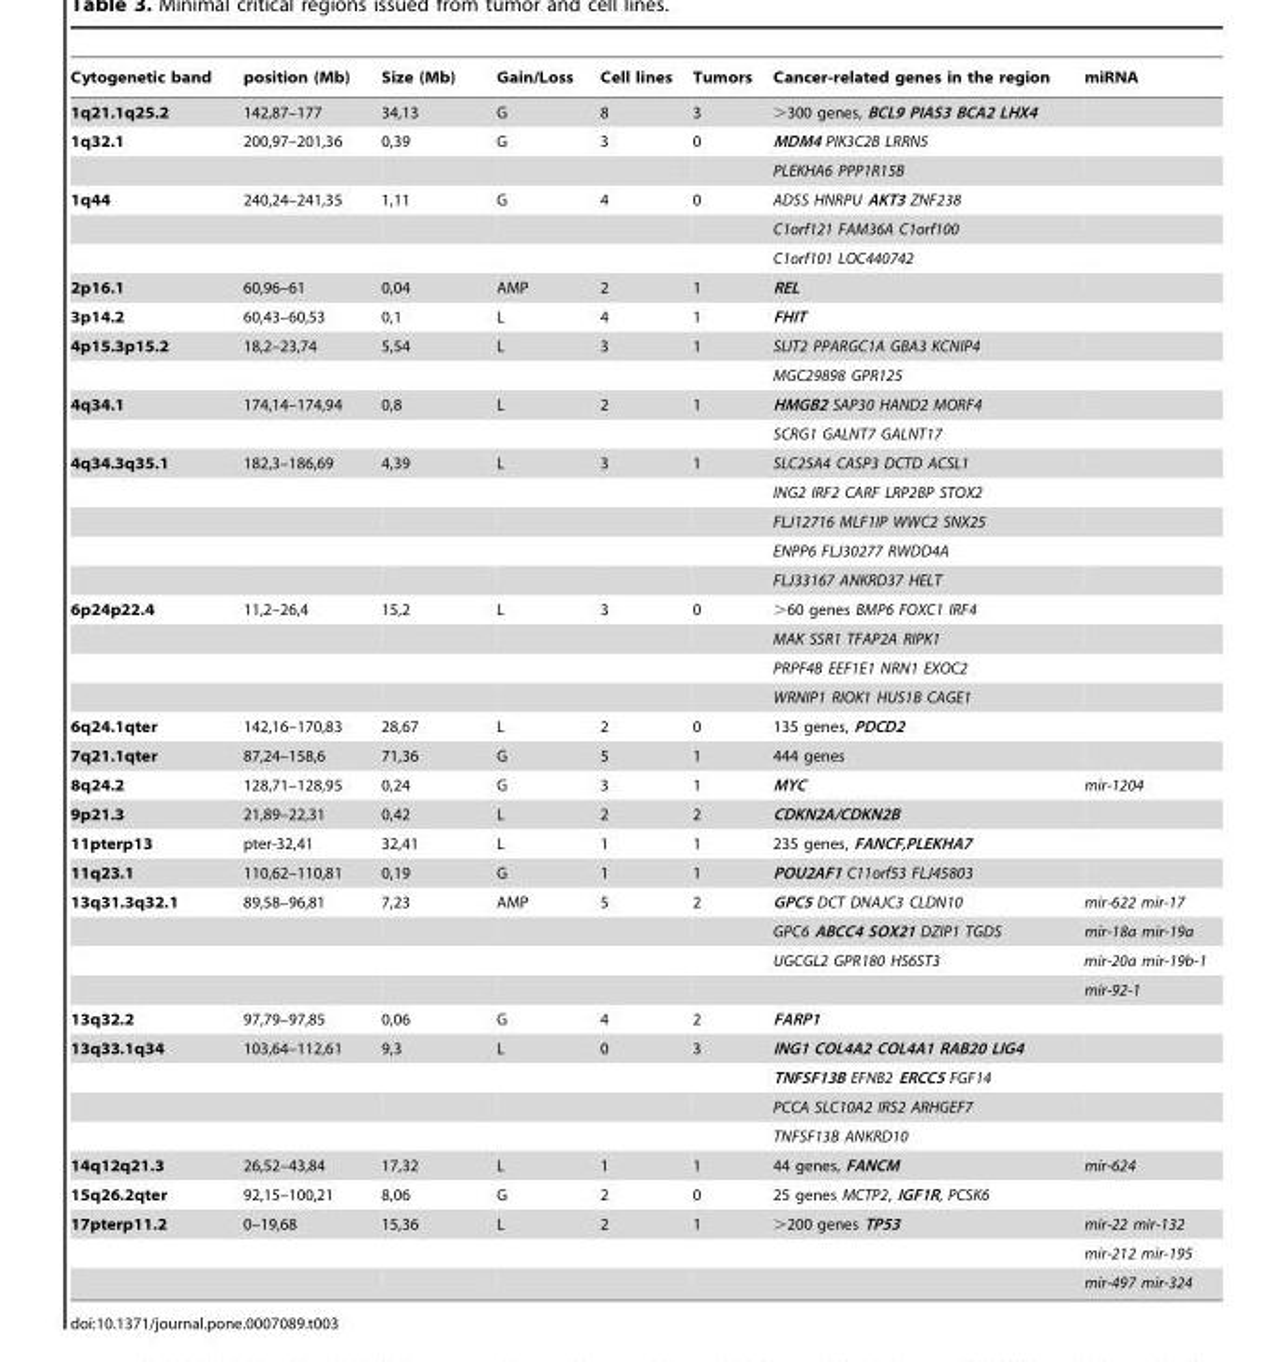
<table><thead><tr><td>Cytogenetic band</td><td>position (Mb)</td><td>Size (Mb)</td><td>Gain/Loss</td><td>Cell lines</td><td>Tumors</td><td>Cancer-related genes in the region</td><td>miRNA</td></tr></thead><tbody><tr><td>1q21.1q25.2</td><td>142,87–177</td><td>34,13</td><td>G</td><td>8</td><td>3</td><td>&gt;300 genes, BCL9 PIAS3 BCA2 LHX4</td><td></td></tr><tr><td rowspan="2">1q32.1</td><td>200,97–201,36</td><td>0,39</td><td>G</td><td>3</td><td>0</td><td>MDM4 PIK3C2B LRRN5</td><td></td></tr><tr><td></td><td></td><td></td><td></td><td></td><td>PLEKHA6 PPP1R15B</td><td></td></tr><tr><td rowspan="3">1q44</td><td>240,24–241,35</td><td>1,11</td><td>G</td><td>4</td><td>0</td><td>ADSS HNRPU AKT3 ZNF238</td><td></td></tr><tr><td></td><td></td><td></td><td></td><td></td><td>C1orf121 FAM36A C1orf100</td><td></td></tr><tr><td></td><td></td><td></td><td></td><td></td><td>C1orf101 LOC440742</td><td></td></tr><tr><td>2p16.1</td><td>60,96–61</td><td>0,04</td><td>AMP</td><td>2</td><td>1</td><td>REL</td><td></td></tr><tr><td>3p14.2</td><td>60,43–60,53</td><td>0,1</td><td>L</td><td>4</td><td>1</td><td>FHIT</td><td></td></tr><tr><td rowspan="2">4p15.3p15.2</td><td>18,2–23,74</td><td>5,54</td><td>L</td><td>3</td><td>1</td><td>SLIT2 PPARGC1A GBA3 KCNIP4</td><td></td></tr><tr><td></td><td></td><td></td><td></td><td></td><td>MGC29898 GPR125</td><td></td></tr><tr><td rowspan="2">4q34.1</td><td>174,14–174,94</td><td>0,8</td><td>L</td><td>2</td><td>1</td><td>HMGB2 SAP30 HAND2 MORF4</td><td></td></tr><tr><td></td><td></td><td></td><td></td><td></td><td>SCRG1 GALNT7 GALNT17</td><td></td></tr><tr><td rowspan="5">4q34.3q35.1</td><td>182,3–186,69</td><td>4,39</td><td>L</td><td>3</td><td>1</td><td>SLC25A4 CASP3 DCTD ACSL1</td><td></td></tr><tr><td></td><td></td><td></td><td></td><td></td><td>ING2 IRF2 CARF LRP2BP STOX2</td><td></td></tr><tr><td></td><td></td><td></td><td></td><td></td><td>FLJ12716 MLF1IP WWC2 SNX25</td><td></td></tr><tr><td></td><td></td><td></td><td></td><td></td><td>ENPP6 FLJ30277 RWDD4A</td><td></td></tr><tr><td></td><td></td><td></td><td></td><td></td><td>FLJ33167 ANKRD37 HELT</td><td></td></tr><tr><td rowspan="4">6p24p22.4</td><td>11,2–26,4</td><td>15,2</td><td>L</td><td>3</td><td>0</td><td>&gt;60 genes BMP6 FOXC1 IRF4</td><td></td></tr><tr><td></td><td></td><td></td><td></td><td></td><td>MAK SSR1 TFAP2A RIPK1</td><td></td></tr><tr><td></td><td></td><td></td><td></td><td></td><td>PRPF4B EEF1E1 NRN1 EXOC2</td><td></td></tr><tr><td></td><td></td><td></td><td></td><td></td><td>WRNIP1 RIOK1 HUS1B CAGE1</td><td></td></tr><tr><td>6q24.1qter</td><td>142,16–170,83</td><td>28,67</td><td>L</td><td>2</td><td>0</td><td>135 genes, PDCD2</td><td></td></tr><tr><td>7q21.1qter</td><td>87,24–158,6</td><td>71,36</td><td>G</td><td>5</td><td>1</td><td>444 genes</td><td></td></tr><tr><td>8q24.2</td><td>128,71–128,95</td><td>0,24</td><td>G</td><td>3</td><td>1</td><td>MYC</td><td>mir-1204</td></tr><tr><td>9p21.3</td><td>21,89–22,31</td><td>0,42</td><td>L</td><td>2</td><td>2</td><td>CDKN2A/CDKN2B</td><td></td></tr><tr><td>11pterp13</td><td>pter-32,41</td><td>32,41</td><td>L</td><td>1</td><td>1</td><td>235 genes, FANCF,PLEKHA7</td><td></td></tr><tr><td>11q23.1</td><td>110,62–110,81</td><td>0,19</td><td>G</td><td>1</td><td>1</td><td>POU2AF1 C11orf53 FLJ45803</td><td></td></tr><tr><td rowspan="4">13q31.3q32.1</td><td>89,58–96,81</td><td>7,23</td><td>AMP</td><td>5</td><td>2</td><td>GPC5 DCT DNAJC3 CLDN10</td><td>mir-622 mir-17</td></tr><tr><td></td><td></td><td></td><td></td><td></td><td>GPC6 ABCC4 SOX21 DZIP1 TGDS</td><td>mir-18a mir-19a</td></tr><tr><td></td><td></td><td></td><td></td><td></td><td>UGCGL2 GPR180 HS6ST3</td><td>mir-20a mir-19b-1</td></tr><tr><td></td><td></td><td></td><td></td><td></td><td></td><td>mir-92-1</td></tr><tr><td>13q32.2</td><td>97,79–97,85</td><td>0,06</td><td>G</td><td>4</td><td>2</td><td>FARP1</td><td></td></tr><tr><td rowspan="4">13q33.1q34</td><td>103,64–112,61</td><td>9,3</td><td>L</td><td>0</td><td>3</td><td>ING1 COL4A2 COL4A1 RAB20 LIG4</td><td></td></tr><tr><td></td><td></td><td></td><td></td><td></td><td>TNFSF13B EFNB2 ERCC5 FGF14</td><td></td></tr><tr><td></td><td></td><td></td><td></td><td></td><td>PCCA SLC10A2 IRS2 ARHGEF7</td><td></td></tr><tr><td></td><td></td><td></td><td></td><td></td><td>TNFSF13B ANKRD10</td><td></td></tr><tr><td>14q12q21.3</td><td>26,52–43,84</td><td>17,32</td><td>L</td><td>1</td><td>1</td><td>44 genes, FANCM</td><td>mir-624</td></tr><tr><td>15q26.2qter</td><td>92,15–100,21</td><td>8,06</td><td>G</td><td>2</td><td>0</td><td>25 genes MCTP2, IGF1R, PCSK6</td><td></td></tr><tr><td rowspan="3">17pterp11.2</td><td>0–19,68</td><td>15,36</td><td>L</td><td>2</td><td>1</td><td>&gt;200 genes TP53</td><td>mir-22 mir-132</td></tr><tr><td></td><td></td><td></td><td></td><td></td><td></td><td>mir-212 mir-195</td></tr><tr><td></td><td></td><td></td><td></td><td></td><td></td><td>mir-497 mir-324</td></tr></tbody></table>